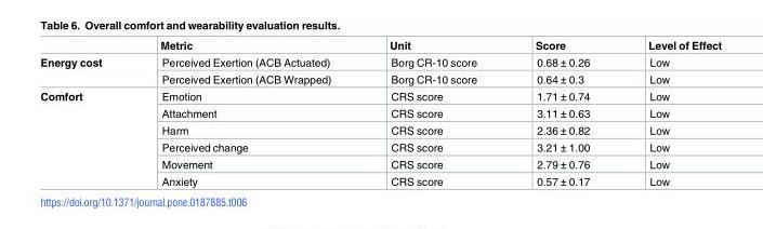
<table><thead><tr><td></td><td>Metric</td><td>Unit</td><td>Score</td><td>Level of Effect</td></tr></thead><tbody><tr><td rowspan="2">Energy cost</td><td>Perceived Exertion (ACB Actuated)</td><td>Borg CR-10 score</td><td>0.68 ± 0.26</td><td>Low</td></tr><tr><td>Perceived Exertion (ACB Wrapped)</td><td>Borg CR-10 score</td><td>0.64 ± 0.3</td><td>Low</td></tr><tr><td rowspan="6">Comfort</td><td>Emotion</td><td>CRS score</td><td>1.71 ± 0.74</td><td>Low</td></tr><tr><td>Attachment</td><td>CRS score</td><td>3.11 ± 0.63</td><td>Low</td></tr><tr><td>Harm</td><td>CRS score</td><td>2.36 ± 0.82</td><td>Low</td></tr><tr><td>Perceived change</td><td>CRS score</td><td>3.21 ± 1.00</td><td>Low</td></tr><tr><td>Movement</td><td>CRS score</td><td>2.79 ± 0.76</td><td>Low</td></tr><tr><td>Anxiety</td><td>CRS score</td><td>0.57 ± 0.17</td><td>Low</td></tr></tbody></table>